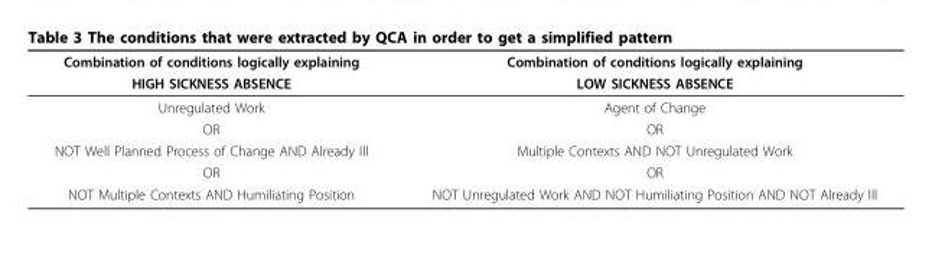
<table><thead><tr><td rowspan="2">Combination of conditions logically explaining HIGH SICKNESS ABSENCE</td><td rowspan="2">Combination of conditions logically explaining LOW SICKNESS ABSENCE</td></tr><tr></tr></thead><tbody><tr><td>Unregulated Work</td><td>Agent of Change</td></tr><tr><td>OR</td><td>OR</td></tr><tr><td>NOT Well Planned Process of Change AND Already Ill</td><td>Multiple Contexts AND NOT Unregulated Work</td></tr><tr><td>OR</td><td>OR</td></tr><tr><td>NOT Multiple Contexts AND Humiliating Position</td><td>NOT Unregulated Work AND NOT Humiliating Position AND NOT Already Ill</td></tr></tbody></table>